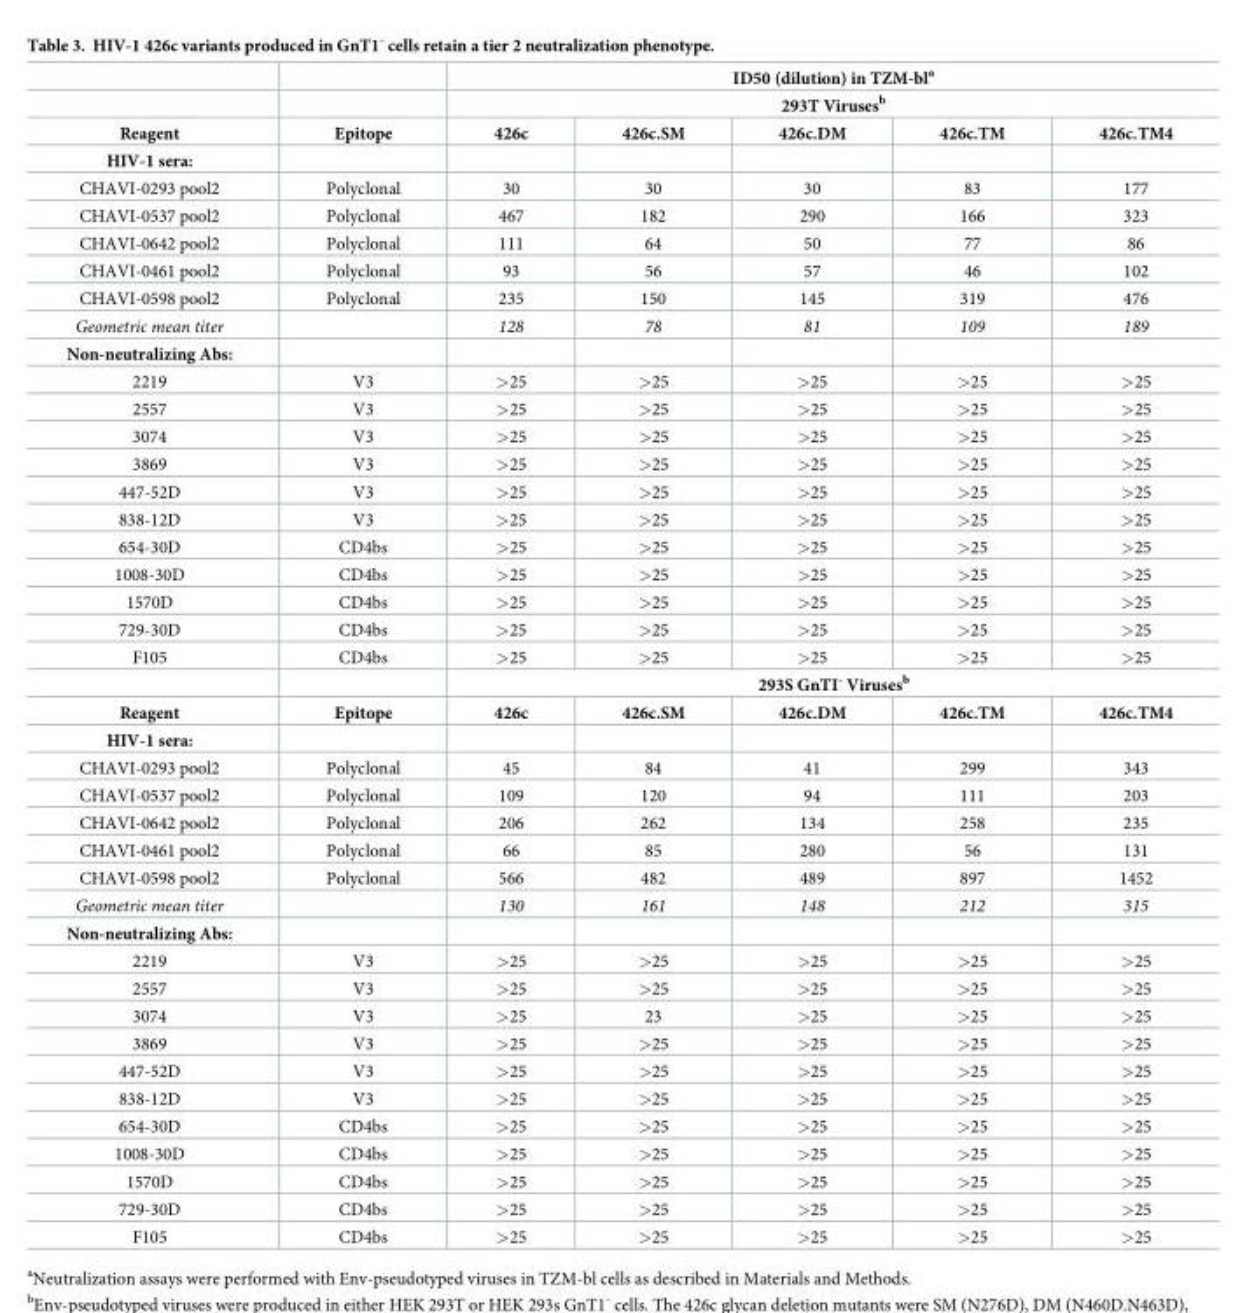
<table><thead><tr><td rowspan="3">Reagent</td><td rowspan="3">Epitope</td><td rowspan="2" colspan="5">ID50 (dilution) in TZM-bl<sup>a</sup> 293T Viruses<sup>b</sup></td></tr><tr></tr><tr><td>426c</td><td>426c.SM</td><td>426c.DM</td><td>426c.TM</td><td>426c.TM4</td></tr></thead><tbody><tr><td colspan="7">HIV-1 sera:</td></tr><tr><td>CHAVI-0293 pool2</td><td>Polyclonal</td><td>30</td><td>30</td><td>30</td><td>83</td><td>177</td></tr><tr><td>CHAVI-0537 pool2</td><td>Polyclonal</td><td>467</td><td>182</td><td>290</td><td>166</td><td>323</td></tr><tr><td>CHAVI-0642 pool2</td><td>Polyclonal</td><td>111</td><td>64</td><td>50</td><td>77</td><td>86</td></tr><tr><td>CHAVI-0461 pool2</td><td>Polyclonal</td><td>93</td><td>56</td><td>57</td><td>46</td><td>102</td></tr><tr><td>CHAVI-0598 pool2</td><td>Polyclonal</td><td>235</td><td>150</td><td>145</td><td>319</td><td>476</td></tr><tr><td>Geometric mean titer</td><td></td><td>128</td><td>78</td><td>81</td><td>109</td><td>189</td></tr><tr><td colspan="7">Non-neutralizing Abs:</td></tr><tr><td>2219</td><td>V3</td><td>&gt;25</td><td>&gt;25</td><td>&gt;25</td><td>&gt;25</td><td>&gt;25</td></tr><tr><td>2557</td><td>V3</td><td>&gt;25</td><td>&gt;25</td><td>&gt;25</td><td>&gt;25</td><td>&gt;25</td></tr><tr><td>3074</td><td>V3</td><td>&gt;25</td><td>&gt;25</td><td>&gt;25</td><td>&gt;25</td><td>&gt;25</td></tr><tr><td>3869</td><td>V3</td><td>&gt;25</td><td>&gt;25</td><td>&gt;25</td><td>&gt;25</td><td>&gt;25</td></tr><tr><td>447-52D</td><td>V3</td><td>&gt;25</td><td>&gt;25</td><td>&gt;25</td><td>&gt;25</td><td>&gt;25</td></tr><tr><td>838-12D</td><td>V3</td><td>&gt;25</td><td>&gt;25</td><td>&gt;25</td><td>&gt;25</td><td>&gt;25</td></tr><tr><td>654-30D</td><td>CD4bs</td><td>&gt;25</td><td>&gt;25</td><td>&gt;25</td><td>&gt;25</td><td>&gt;25</td></tr><tr><td>1008-30D</td><td>CD4bs</td><td>&gt;25</td><td>&gt;25</td><td>&gt;25</td><td>&gt;25</td><td>&gt;25</td></tr><tr><td>1570D</td><td>CD4bs</td><td>&gt;25</td><td>&gt;25</td><td>&gt;25</td><td>&gt;25</td><td>&gt;25</td></tr><tr><td>729-30D</td><td>CD4bs</td><td>&gt;25</td><td>&gt;25</td><td>&gt;25</td><td>&gt;25</td><td>&gt;25</td></tr><tr><td rowspan="2">F105</td><td>CD4bs</td><td>&gt;25</td><td>&gt;25</td><td>&gt;25</td><td>&gt;25</td><td>&gt;25</td></tr><tr><td></td><td colspan="5">293S GnTI<sup>-</sup> Viruses<sup>b</sup></td></tr><tr><td>Reagent</td><td>Epitope</td><td>426c</td><td>426c.SM</td><td>426c.DM</td><td>426c.TM</td><td>426c.TM4</td></tr><tr><td colspan="7">HIV-1 sera:</td></tr><tr><td>CHAVI-0293 pool2</td><td>Polyclonal</td><td>45</td><td>84</td><td>41</td><td>299</td><td>343</td></tr><tr><td>CHAVI-0537 pool2</td><td>Polyclonal</td><td>109</td><td>120</td><td>94</td><td>111</td><td>203</td></tr><tr><td>CHAVI-0642 pool2</td><td>Polyclonal</td><td>206</td><td>262</td><td>134</td><td>258</td><td>235</td></tr><tr><td>CHAVI-0461 pool2</td><td>Polyclonal</td><td>66</td><td>85</td><td>280</td><td>56</td><td>131</td></tr><tr><td>CHAVI-0598 pool2</td><td>Polyclonal</td><td>566</td><td>482</td><td>489</td><td>897</td><td>1452</td></tr><tr><td>Geometric mean titer</td><td></td><td>130</td><td>161</td><td>148</td><td>212</td><td>315</td></tr><tr><td colspan="7">Non-neutralizing Abs:</td></tr><tr><td>2219</td><td>V3</td><td>&gt;25</td><td>&gt;25</td><td>&gt;25</td><td>&gt;25</td><td>&gt;25</td></tr><tr><td>2557</td><td>V3</td><td>&gt;25</td><td>&gt;25</td><td>&gt;25</td><td>&gt;25</td><td>&gt;25</td></tr><tr><td>3074</td><td>V3</td><td>&gt;25</td><td>23</td><td>&gt;25</td><td>&gt;25</td><td>&gt;25</td></tr><tr><td>3869</td><td>V3</td><td>&gt;25</td><td>&gt;25</td><td>&gt;25</td><td>&gt;25</td><td>&gt;25</td></tr><tr><td>447-52D</td><td>V3</td><td>&gt;25</td><td>&gt;25</td><td>&gt;25</td><td>&gt;25</td><td>&gt;25</td></tr><tr><td>838-12D</td><td>V3</td><td>&gt;25</td><td>&gt;25</td><td>&gt;25</td><td>&gt;25</td><td>&gt;25</td></tr><tr><td>654-30D</td><td>CD4bs</td><td>&gt;25</td><td>&gt;25</td><td>&gt;25</td><td>&gt;25</td><td>&gt;25</td></tr><tr><td>1008-30D</td><td>CD4bs</td><td>&gt;25</td><td>&gt;25</td><td>&gt;25</td><td>&gt;25</td><td>&gt;25</td></tr><tr><td>1570D</td><td>CD4bs</td><td>&gt;25</td><td>&gt;25</td><td>&gt;25</td><td>&gt;25</td><td>&gt;25</td></tr><tr><td>729-30D</td><td>CD4bs</td><td>&gt;25</td><td>&gt;25</td><td>&gt;25</td><td>&gt;25</td><td>&gt;25</td></tr><tr><td>F105</td><td>CD4bs</td><td>&gt;25</td><td>&gt;25</td><td>&gt;25</td><td>&gt;25</td><td>&gt;25</td></tr></tbody></table>